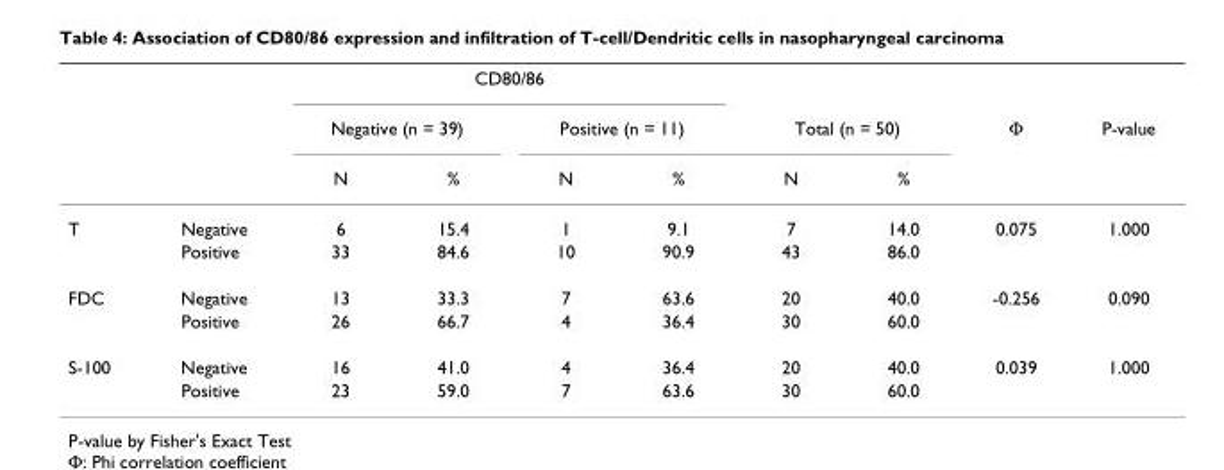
<table><thead><tr><td rowspan="3"></td><td rowspan="3"></td><td colspan="4">CD80/86</td><td></td><td></td><td rowspan="3">Φ</td><td rowspan="3">P-value</td></tr><tr><td colspan="2">Negative (n = 39)</td><td colspan="2">Positive (n = 11)</td><td colspan="2">Total (n = 50)</td></tr><tr><td>N</td><td>%</td><td>N</td><td>%</td><td>N</td><td>%</td></tr></thead><tbody><tr><td rowspan="2">T</td><td>Negative</td><td>6</td><td>15.4</td><td>1</td><td>9.1</td><td>7</td><td>14.0</td><td>0.075</td><td>1.000</td></tr><tr><td>Positive</td><td>33</td><td>84.6</td><td>10</td><td>90.9</td><td>43</td><td>86.0</td><td></td><td></td></tr><tr><td rowspan="2">FDC</td><td>Negative</td><td>13</td><td>33.3</td><td>7</td><td>63.6</td><td>20</td><td>40.0</td><td>-0.256</td><td>0.090</td></tr><tr><td>Positive</td><td>26</td><td>66.7</td><td>4</td><td>36.4</td><td>30</td><td>60.0</td><td></td><td></td></tr><tr><td rowspan="2">S-100</td><td>Negative</td><td>16</td><td>41.0</td><td>4</td><td>36.4</td><td>20</td><td>40.0</td><td>0.039</td><td>1.000</td></tr><tr><td>Positive</td><td>23</td><td>59.0</td><td>7</td><td>63.6</td><td>30</td><td>60.0</td><td></td><td></td></tr></tbody></table>